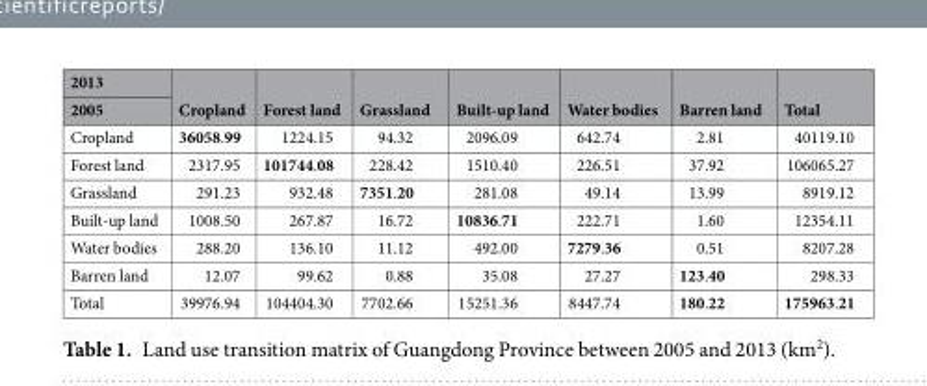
<table><thead><tr><td rowspan="2">2013 2005</td><td rowspan="2">Cropland</td><td rowspan="2">Forest land</td><td rowspan="2">Grassland</td><td rowspan="2">Built-up land</td><td rowspan="2">Water bodies</td><td rowspan="2">Barren land</td><td rowspan="2">Total</td></tr><tr></tr></thead><tbody><tr><td>Cropland</td><td>36058.99</td><td>1224.15</td><td>94.32</td><td>2096.09</td><td>642.74</td><td>2.81</td><td>40119.10</td></tr><tr><td>Forest land</td><td>2317.95</td><td>101744.08</td><td>228.42</td><td>1510.40</td><td>226.51</td><td>37.92</td><td>106065.27</td></tr><tr><td>Grassland</td><td>291.23</td><td>932.48</td><td>7351.20</td><td>281.08</td><td>49.14</td><td>13.99</td><td>8919.12</td></tr><tr><td>Built-up land</td><td>1008.50</td><td>267.87</td><td>16.72</td><td>10836.71</td><td>222.71</td><td>1.60</td><td>12354.11</td></tr><tr><td>Water bodies</td><td>288.20</td><td>136.10</td><td>11.12</td><td>492.00</td><td>7279.36</td><td>0.51</td><td>8207.28</td></tr><tr><td>Barren land</td><td>12.07</td><td>99.62</td><td>0.88</td><td>35.08</td><td>27.27</td><td>123.40</td><td>298.33</td></tr><tr><td>Total</td><td>39976.94</td><td>104404.30</td><td>7702.66</td><td>15251.36</td><td>8447.74</td><td>180.22</td><td>175963.21</td></tr></tbody></table>